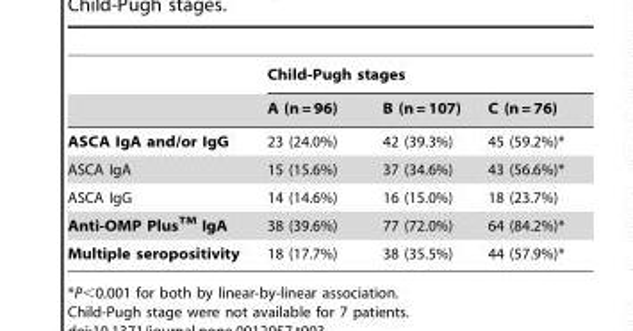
<table><thead><tr><td rowspan="2"></td><td colspan="3">Child-Pugh stages</td></tr><tr><td>A (n = 96)</td><td>B (n = 107)</td><td>C (n = 76)</td></tr></thead><tbody><tr><td>ASCA IgA and/or IgG</td><td>23 (24.0%)</td><td>42 (39.3%)</td><td>45 (59.2%)*</td></tr><tr><td>ASCA IgA</td><td>15 (15.6%)</td><td>37 (34.6%)</td><td>43 (56.6%)*</td></tr><tr><td>ASCA IgG</td><td>14 (14.6%)</td><td>16 (15.0%)</td><td>18 (23.7%)</td></tr><tr><td>Anti-OMP PlusTM IgA</td><td>38 (39.6%)</td><td>77 (72.0%)</td><td>64 (84.2%)*</td></tr><tr><td>Multiple seropositivity</td><td>18 (17.7%)</td><td>38 (35.5%)</td><td>44 (57.9%)*</td></tr></tbody></table>